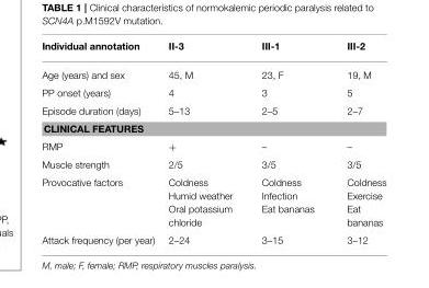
<table><thead><tr><td>Individual annotation</td><td>II-3</td><td>III-1</td><td>III-2</td></tr></thead><tbody><tr><td>Age (years) and sex</td><td>45, M</td><td>23, F</td><td>19, M</td></tr><tr><td>PP onset (years)</td><td>4</td><td>3</td><td>5</td></tr><tr><td>Episode duration (days)</td><td>5–13</td><td>2–5</td><td>2–7</td></tr><tr><td colspan="4">CLINICAL FEATURES</td></tr><tr><td>RMP</td><td>+</td><td>–</td><td>–</td></tr><tr><td>Muscle strength</td><td>2/5</td><td>3/5</td><td>3/5</td></tr><tr><td>Provocative factors</td><td>Coldness Humid weather Oral potassium chloride</td><td>Coldness Infection Eat bananas</td><td>Coldness Exercise Eat bananas</td></tr><tr><td>Attack frequency (per year)</td><td>2–24</td><td>3–15</td><td>3–12</td></tr></tbody></table>